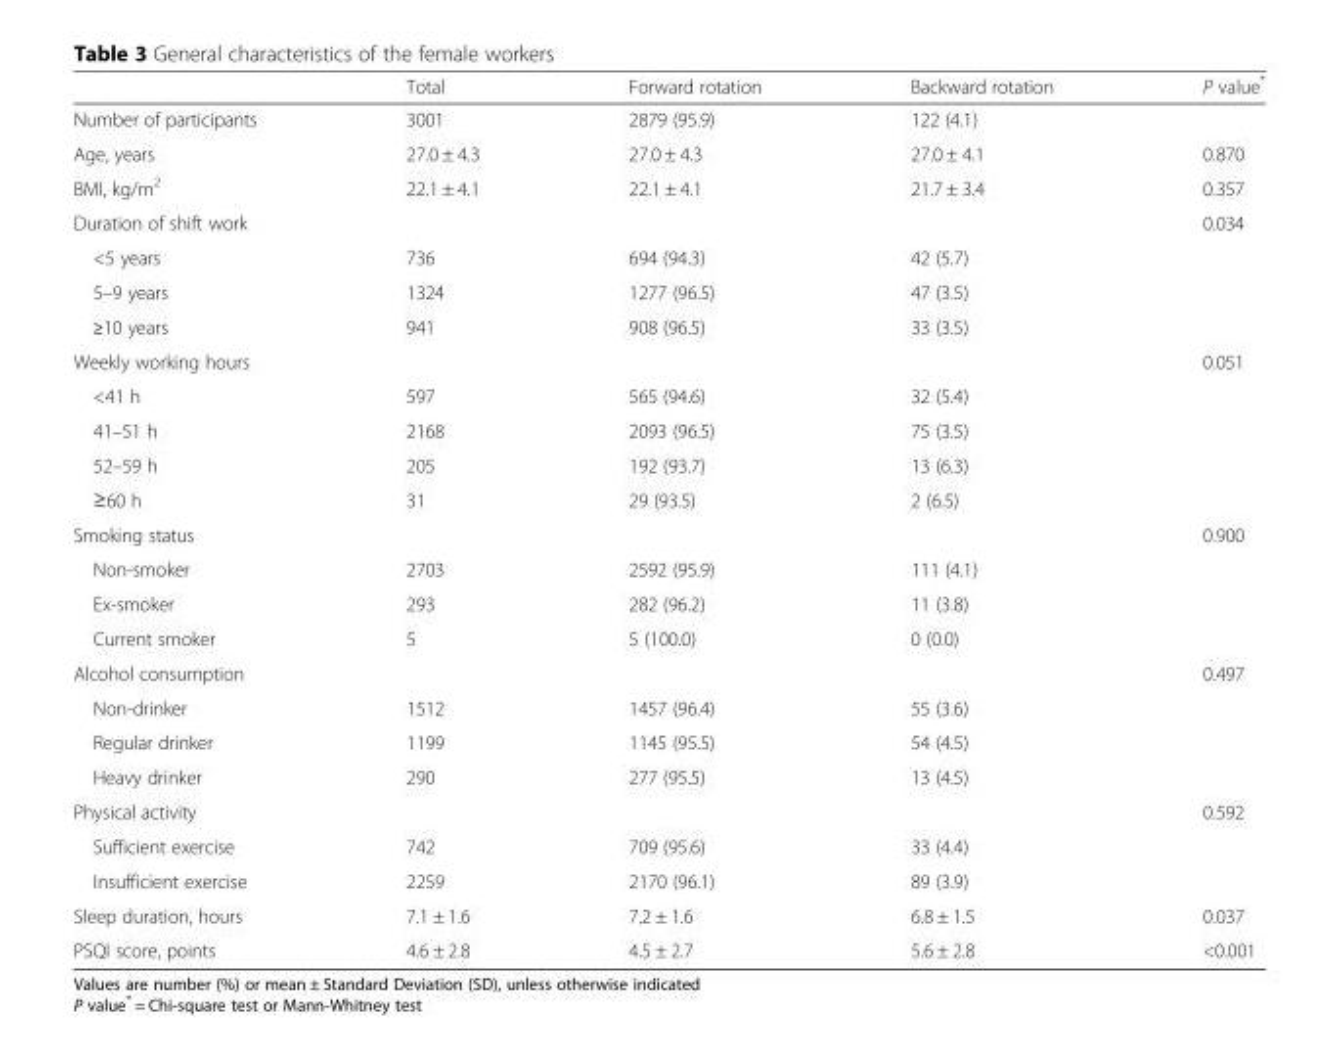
<table><thead><tr><td></td><td>Total</td><td>Forward rotation</td><td>Backward rotation</td><td>P value*</td></tr></thead><tbody><tr><td>Number of participants</td><td>3001</td><td>2879 (95.9)</td><td>122 (4.1)</td><td></td></tr><tr><td>Age, years</td><td>27.0 ± 4.3</td><td>27.0 ± 4.3</td><td>27.0 ± 4.1</td><td>0.870</td></tr><tr><td>BMI, kg/m<sup>2</sup></td><td>22.1 ± 4.1</td><td>22.1 ± 4.1</td><td>21.7 ± 3.4</td><td>0.357</td></tr><tr><td>Duration of shift work</td><td></td><td></td><td></td><td>0.034</td></tr><tr><td>&lt;5 years</td><td>736</td><td>694 (94.3)</td><td>42 (5.7)</td><td></td></tr><tr><td>5–9 years</td><td>1324</td><td>1277 (96.5)</td><td>47 (3.5)</td><td></td></tr><tr><td>≥10 years</td><td>941</td><td>908 (96.5)</td><td>33 (3.5)</td><td></td></tr><tr><td>Weekly working hours</td><td></td><td></td><td></td><td>0.051</td></tr><tr><td>&lt;41 h</td><td>597</td><td>565 (94.6)</td><td>32 (5.4)</td><td></td></tr><tr><td>41–51 h</td><td>2168</td><td>2093 (96.5)</td><td>75 (3.5)</td><td></td></tr><tr><td>52–59 h</td><td>205</td><td>192 (93.7)</td><td>13 (6.3)</td><td></td></tr><tr><td>≥60 h</td><td>31</td><td>29 (93.5)</td><td>2 (6.5)</td><td></td></tr><tr><td>Smoking status</td><td></td><td></td><td></td><td>0.900</td></tr><tr><td>Non-smoker</td><td>2703</td><td>2592 (95.9)</td><td>111 (4.1)</td><td></td></tr><tr><td>Ex-smoker</td><td>293</td><td>282 (96.2)</td><td>11 (3.8)</td><td></td></tr><tr><td>Current smoker</td><td>5</td><td>5 (100.0)</td><td>0 (0.0)</td><td></td></tr><tr><td>Alcohol consumption</td><td></td><td></td><td></td><td>0.497</td></tr><tr><td>Non-drinker</td><td>1512</td><td>1457 (96.4)</td><td>55 (3.6)</td><td></td></tr><tr><td>Regular drinker</td><td>1199</td><td>1145 (95.5)</td><td>54 (4.5)</td><td></td></tr><tr><td>Heavy drinker</td><td>290</td><td>277 (95.5)</td><td>13 (4.5)</td><td></td></tr><tr><td>Physical activity</td><td></td><td></td><td></td><td>0.592</td></tr><tr><td>Sufficient exercise</td><td>742</td><td>709 (95.6)</td><td>33 (4.4)</td><td></td></tr><tr><td>Insufficient exercise</td><td>2259</td><td>2170 (96.1)</td><td>89 (3.9)</td><td></td></tr><tr><td>Sleep duration, hours</td><td>7.1 ± 1.6</td><td>7.2 ± 1.6</td><td>6.8 ± 1.5</td><td>0.037</td></tr><tr><td>PSQI score, points</td><td>4.6 ± 2.8</td><td>4.5 ± 2.7</td><td>5.6 ± 2.8</td><td>&lt;0.001</td></tr></tbody></table>